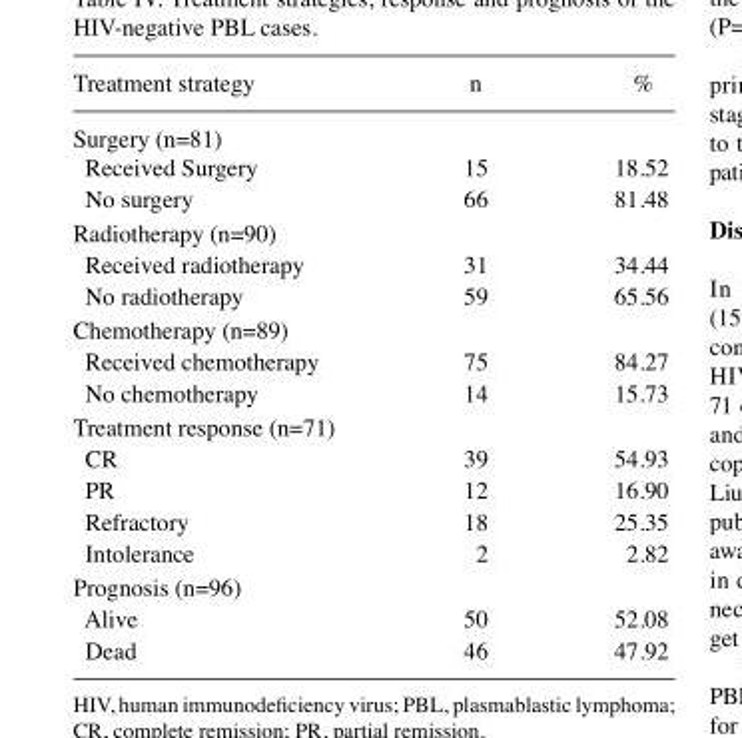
<table><thead><tr><td>Treatment strategy</td><td>n</td><td>%</td></tr></thead><tbody><tr><td colspan="3">Surgery (n=81)</td></tr><tr><td>Received Surgery</td><td>15</td><td>18.52</td></tr><tr><td>no surgery</td><td>66</td><td>81.48</td></tr><tr><td colspan="3">Radiotherapy (n=90)</td></tr><tr><td>Received radiotherapy</td><td>31</td><td>34.44</td></tr><tr><td>no radiotherapy</td><td>59</td><td>65.56</td></tr><tr><td colspan="3">Chemotherapy (n=89)</td></tr><tr><td>Received chemotherapy</td><td>75</td><td>84.27</td></tr><tr><td>no chemotherapy</td><td>14</td><td>15.73</td></tr><tr><td colspan="3">Treatment response (n=71)</td></tr><tr><td>CR</td><td>39</td><td>54.93</td></tr><tr><td>PR</td><td>12</td><td>16.90</td></tr><tr><td>Refractory</td><td>18</td><td>25.35</td></tr><tr><td>Intolerance</td><td>2</td><td>2.82</td></tr><tr><td colspan="3">Prognosis (n=96)</td></tr><tr><td>Alive</td><td>50</td><td>52.08</td></tr><tr><td>Dead</td><td>46</td><td>47.92</td></tr></tbody></table>